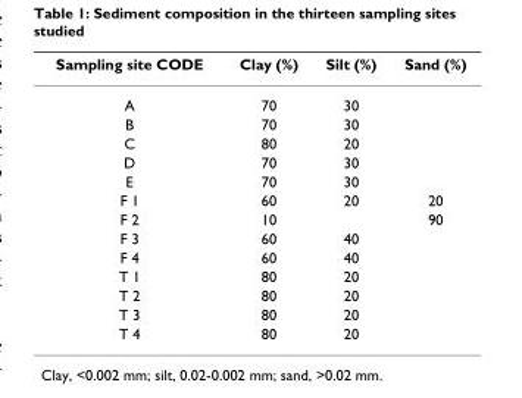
<table><thead><tr><td>Sampling site CODE</td><td>Clay (%)</td><td>Silt (%)</td><td>Sand (%)</td></tr></thead><tbody><tr><td>A</td><td>70</td><td>30</td><td></td></tr><tr><td>B</td><td>70</td><td>30</td><td></td></tr><tr><td>C</td><td>80</td><td>20</td><td></td></tr><tr><td>D</td><td>70</td><td>30</td><td></td></tr><tr><td>E</td><td>70</td><td>30</td><td></td></tr><tr><td>F 1</td><td>60</td><td>20</td><td>20</td></tr><tr><td>F 2</td><td>10</td><td></td><td>90</td></tr><tr><td>F 3</td><td>60</td><td>40</td><td></td></tr><tr><td>F 4</td><td>60</td><td>40</td><td></td></tr><tr><td>T 1</td><td>80</td><td>20</td><td></td></tr><tr><td>T 2</td><td>80</td><td>20</td><td></td></tr><tr><td>T 3</td><td>80</td><td>20</td><td></td></tr><tr><td>T 4</td><td>80</td><td>20</td><td></td></tr></tbody></table>